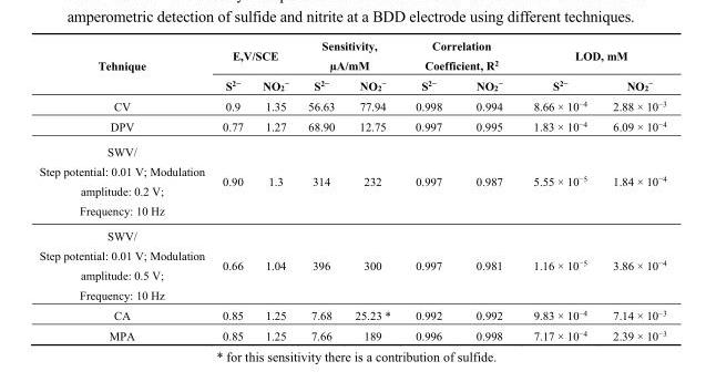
<table><thead><tr><td rowspan="2">Tehnique</td><td colspan="2">E,V/SCE</td><td colspan="2">Sensitivity, µA/mM</td><td colspan="2">Correlation Coefficient, R<sup>2</sup></td><td colspan="2">LOD, mM</td></tr><tr><td>S<sup>2−</sup></td><td>NO<sub>2</sub><sup>−</sup></td><td>S<sup>2−</sup></td><td>NO<sub>2</sub><sup>−</sup></td><td>S<sup>2−</sup></td><td>NO<sub>2</sub><sup>−</sup></td><td>S<sup>2−</sup></td><td>NO<sub>2</sub><sup>−</sup></td></tr></thead><tbody><tr><td>CV</td><td>0.9</td><td>1.35</td><td>56.63</td><td>77.94</td><td>0.998</td><td>0.994</td><td>8.66 × 10<sup>−4</sup></td><td>2.88 × 10<sup>−3</sup></td></tr><tr><td>DPV</td><td>0.77</td><td>1.27</td><td>68.90</td><td>12.75</td><td>0.997</td><td>0.995</td><td>1.83 × 10<sup>−4</sup></td><td>6.09 × 10<sup>−4</sup></td></tr><tr><td>SWV/ Step potential: 0.01 V; Modulation amplitude: 0.2 V; Frequency: 10 Hz</td><td>0.90</td><td>1.3</td><td>314</td><td>232</td><td>0.997</td><td>0.987</td><td>5.55 × 10<sup>−5</sup></td><td>1.84 × 10<sup>−4</sup></td></tr><tr><td>SWV/ Step potential: 0.01 V; Modulation amplitude: 0.5 V; Frequency: 10 Hz</td><td>0.66</td><td>1.04</td><td>396</td><td>300</td><td>0.997</td><td>0.981</td><td>1.16 × 10<sup>−5</sup></td><td>3.86 × 10<sup>−4</sup></td></tr><tr><td>CA</td><td>0.85</td><td>1.25</td><td>7.68</td><td>25.23 *</td><td>0.992</td><td>0.992</td><td>9.83 × 10<sup>−4</sup></td><td>7.14 × 10<sup>−3</sup></td></tr><tr><td>MPA</td><td>0.85</td><td>1.25</td><td>7.66</td><td>189</td><td>0.996</td><td>0.998</td><td>7.17 × 10<sup>−4</sup></td><td>2.39 × 10<sup>−3</sup></td></tr></tbody></table>